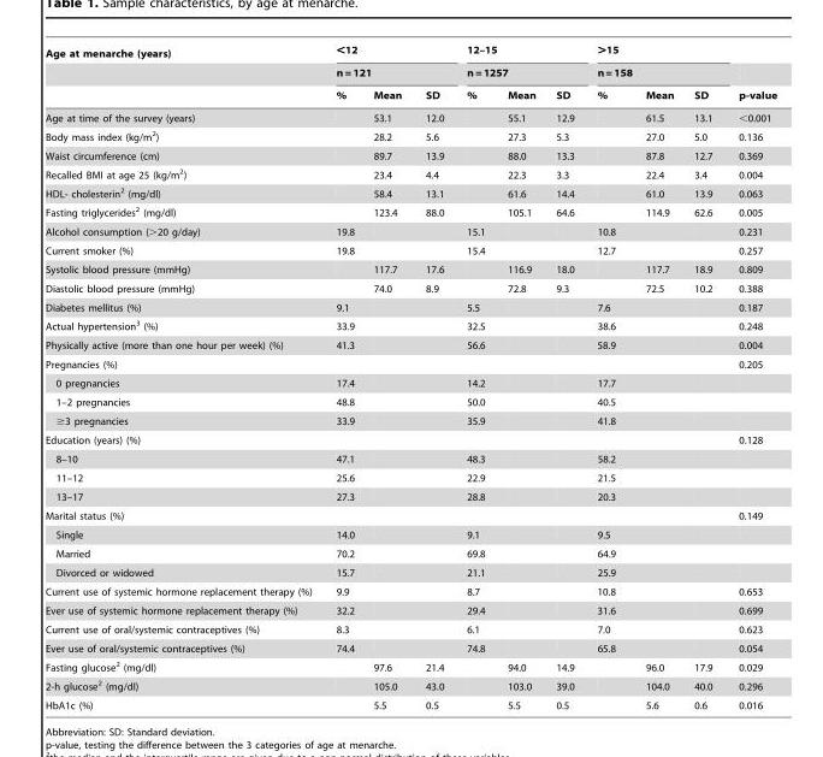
<table><thead><tr><td rowspan="3">Age at menarche (years)</td><td rowspan="2" colspan="3">&lt;12 n = 121</td><td rowspan="2" colspan="3">12–15 n = 1257</td><td rowspan="2" colspan="3">&gt;15 n = 158</td><td rowspan="3">p-value</td></tr><tr></tr><tr><td>%</td><td>Mean</td><td>SD</td><td>%</td><td>Mean</td><td>SD</td><td>%</td><td>Mean</td><td>SD</td></tr></thead><tbody><tr><td>Age at time of the survey (years)</td><td></td><td>53.1</td><td>12.0</td><td></td><td>55.1</td><td>12.9</td><td></td><td>61.5</td><td>13.1</td><td>&lt;0.001</td></tr><tr><td>Body mass index (kg/m<sup>2</sup>)</td><td></td><td>28.2</td><td>5.6</td><td></td><td>27.3</td><td>5.3</td><td></td><td>27.0</td><td>5.0</td><td>0.136</td></tr><tr><td>Waist circumference (cm)</td><td></td><td>89.7</td><td>13.9</td><td></td><td>88.0</td><td>13.3</td><td></td><td>87.8</td><td>12.7</td><td>0.369</td></tr><tr><td>Recalled BMI at age 25 (kg/m<sup>2</sup>)</td><td></td><td>23.4</td><td>4.4</td><td></td><td>22.3</td><td>3.3</td><td></td><td>22.4</td><td>3.4</td><td>0.004</td></tr><tr><td>HDL- cholesterin<sup>2</sup> (mg/dl)</td><td></td><td>58.4</td><td>13.1</td><td></td><td>61.6</td><td>14.4</td><td></td><td>61.0</td><td>13.9</td><td>0.063</td></tr><tr><td>Fasting triglycerides<sup>2</sup> (mg/dl)</td><td></td><td>123.4</td><td>88.0</td><td></td><td>105.1</td><td>64.6</td><td></td><td>114.9</td><td>62.6</td><td>0.005</td></tr><tr><td>Alcohol consumption (&gt;20 g/day)</td><td>19.8</td><td></td><td></td><td>15.1</td><td></td><td></td><td>10.8</td><td></td><td></td><td>0.231</td></tr><tr><td>Current smoker (%)</td><td>19.8</td><td></td><td></td><td>15.4</td><td></td><td></td><td>12.7</td><td></td><td></td><td>0.257</td></tr><tr><td>Systolic blood pressure (mmHg)</td><td></td><td>117.7</td><td>17.6</td><td></td><td>116.9</td><td>18.0</td><td></td><td>117.7</td><td>18.9</td><td>0.809</td></tr><tr><td>Diastolic blood pressure (mmHg)</td><td></td><td>74.0</td><td>8.9</td><td></td><td>72.8</td><td>9.3</td><td></td><td>72.5</td><td>10.2</td><td>0.388</td></tr><tr><td>Diabetes mellitus (%)</td><td>9.1</td><td></td><td></td><td>5.5</td><td></td><td></td><td>7.6</td><td></td><td></td><td>0.187</td></tr><tr><td>Actual hypertension<sup>3</sup> (%)</td><td>33.9</td><td></td><td></td><td>32.5</td><td></td><td></td><td>38.6</td><td></td><td></td><td>0.248</td></tr><tr><td>Physically active (more than one hour per week) (%)</td><td>41.3</td><td></td><td></td><td>56.6</td><td></td><td></td><td>58.9</td><td></td><td></td><td>0.004</td></tr><tr><td>Pregnancies (%)</td><td></td><td></td><td></td><td></td><td></td><td></td><td></td><td></td><td></td><td>0.205</td></tr><tr><td>0 pregnancies</td><td>17.4</td><td></td><td></td><td>14.2</td><td></td><td></td><td>17.7</td><td></td><td></td><td></td></tr><tr><td>1–2 pregnancies</td><td>48.8</td><td></td><td></td><td>50.0</td><td></td><td></td><td>40.5</td><td></td><td></td><td></td></tr><tr><td>≥3 pregnancies</td><td>33.9</td><td></td><td></td><td>35.9</td><td></td><td></td><td>41.8</td><td></td><td></td><td></td></tr><tr><td>Education (years) (%)</td><td></td><td></td><td></td><td></td><td></td><td></td><td></td><td></td><td></td><td>0.128</td></tr><tr><td>8–10</td><td>47.1</td><td></td><td></td><td>48.3</td><td></td><td></td><td>58.2</td><td></td><td></td><td></td></tr><tr><td>11–12</td><td>25.6</td><td></td><td></td><td>22.9</td><td></td><td></td><td>21.5</td><td></td><td></td><td></td></tr><tr><td>13–17</td><td>27.3</td><td></td><td></td><td>28.8</td><td></td><td></td><td>20.3</td><td></td><td></td><td></td></tr><tr><td>Marital status (%)</td><td></td><td></td><td></td><td></td><td></td><td></td><td></td><td></td><td></td><td>0.149</td></tr><tr><td>Single</td><td>14.0</td><td></td><td></td><td>9.1</td><td></td><td></td><td>9.5</td><td></td><td></td><td></td></tr><tr><td>Married</td><td>70.2</td><td></td><td></td><td>69.8</td><td></td><td></td><td>64.9</td><td></td><td></td><td></td></tr><tr><td>Divorced or widowed</td><td>15.7</td><td></td><td></td><td>21.1</td><td></td><td></td><td>25.9</td><td></td><td></td><td></td></tr><tr><td>Current use of systemic hormone replacement therapy (%)</td><td>9.9</td><td></td><td></td><td>8.7</td><td></td><td></td><td>10.8</td><td></td><td></td><td>0.653</td></tr><tr><td>Ever use of systemic hormone replacement therapy (%)</td><td>32.2</td><td></td><td></td><td>29.4</td><td></td><td></td><td>31.6</td><td></td><td></td><td>0.699</td></tr><tr><td>Current use of oral/systemic contraceptives (%)</td><td>8.3</td><td></td><td></td><td>6.1</td><td></td><td></td><td>7.0</td><td></td><td></td><td>0.623</td></tr><tr><td>Ever use of oral/systemic contraceptives (%)</td><td>74.4</td><td></td><td></td><td>74.8</td><td></td><td></td><td>65.8</td><td></td><td></td><td>0.054</td></tr><tr><td>Fasting glucose<sup>2</sup> (mg/dl)</td><td></td><td>97.6</td><td>21.4</td><td></td><td>94.0</td><td>14.9</td><td></td><td>96.0</td><td>17.9</td><td>0.029</td></tr><tr><td>2-h glucose<sup>2</sup> (mg/dl)</td><td></td><td>105.0</td><td>43.0</td><td></td><td>103.0</td><td>39.0</td><td></td><td>104.0</td><td>40.0</td><td>0.296</td></tr><tr><td>HbA1c (%)</td><td></td><td>5.5</td><td>0.5</td><td></td><td>5.5</td><td>0.5</td><td></td><td>5.6</td><td>0.6</td><td>0.016</td></tr></tbody></table>